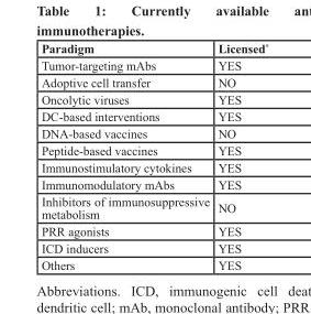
<table><thead><tr><td>Paradigm</td><td>Licensed*</td></tr></thead><tbody><tr><td>Tumor-targeting mAbs</td><td>YES</td></tr><tr><td>Adoptive cell transfer</td><td>NO</td></tr><tr><td>Oncolytic viruses</td><td>YES</td></tr><tr><td>DC-based interventions</td><td>YES</td></tr><tr><td>DNA-based vaccines</td><td>NO</td></tr><tr><td>Peptide-based vaccines</td><td>YES</td></tr><tr><td>Immunostimulatory cytokines</td><td>YES</td></tr><tr><td>Immunomodulatory mAbs</td><td>YES</td></tr><tr><td>Inhibitors of immunosuppressive metabolism</td><td>NO</td></tr><tr><td>PRR agonists</td><td>YES</td></tr><tr><td>ICD inducers</td><td>YES</td></tr><tr><td>Others</td><td>YES</td></tr></tbody></table>